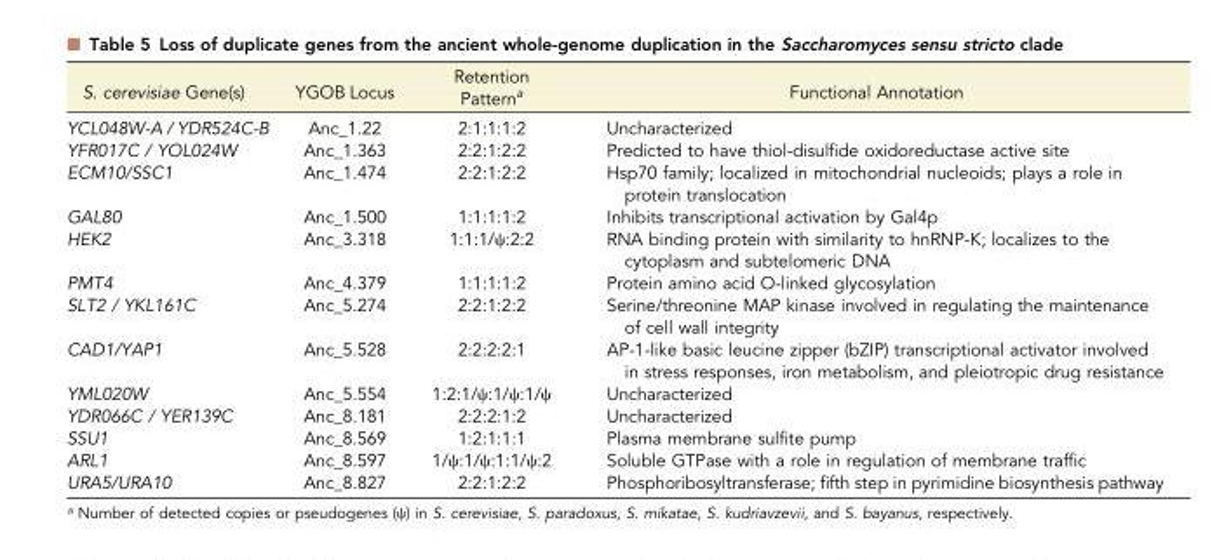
<table><thead><tr><td>S. cerevisiae Gene(s)</td><td>YGOB Locus</td><td>Retention Patterna</td><td>Functional Annotation</td></tr></thead><tbody><tr><td>YCL048W-A / YDR524C-B</td><td>Anc_1.22</td><td>2:1:1:1:2</td><td>Uncharacterized</td></tr><tr><td>YFR017C / YOL024W</td><td>Anc_1.363</td><td>2:2:1:2:2</td><td>Predicted to have thiol-disulfide oxidoreductase active site</td></tr><tr><td>ECM10/SSC1</td><td>Anc_1.474</td><td>2:2:1:2:2</td><td>Hsp70 family; localized in mitochondrial nucleoids; plays a role in protein translocation</td></tr><tr><td>GAL80</td><td>Anc_1.500</td><td>1:1:1:1:2</td><td>Inhibits transcriptional activation by Gal4p</td></tr><tr><td>HEK2</td><td>Anc_3.318</td><td>1:1:1/ψ:2:2</td><td>RNA binding protein with similarity to hnRNP-K; localizes to the cytoplasm and subtelomeric DNA</td></tr><tr><td>PMT4</td><td>Anc_4.379</td><td>1:1:1:1:2</td><td>Protein amino acid O-linked glycosylation</td></tr><tr><td>SLT2 / YKL161C</td><td>Anc_5.274</td><td>2:2:1:2:2</td><td>Serine/threonine MAP kinase involved in regulating the maintenance of cell wall integrity</td></tr><tr><td>CAD1/YAP1</td><td>Anc_5.528</td><td>2:2:2:2:1</td><td>AP-1-like basic leucine zipper (bZIP) transcriptional activator involved in stress responses, iron metabolism, and pleiotropic drug resistance</td></tr><tr><td>YML020W</td><td>Anc_5.554</td><td>1:2:1/ψ:1/ψ:1/ψ</td><td>Uncharacterized</td></tr><tr><td>YDR066C / YER139C</td><td>Anc_8.181</td><td>2:2:2:1:2</td><td>Uncharacterized</td></tr><tr><td>SSU1</td><td>Anc_8.569</td><td>1:2:1:1:1</td><td>Plasma membrane sulfite pump</td></tr><tr><td>ARL1</td><td>Anc_8.597</td><td>1/ψ:1/ψ:1:1/ψ:2</td><td>Soluble GTPase with a role in regulation of membrane traffic</td></tr><tr><td>URA5/URA10</td><td>Anc_8.827</td><td>2:2:1:2:2</td><td>Phosphoribosyltransferase; fifth step in pyrimidine biosynthesis pathway</td></tr></tbody></table>